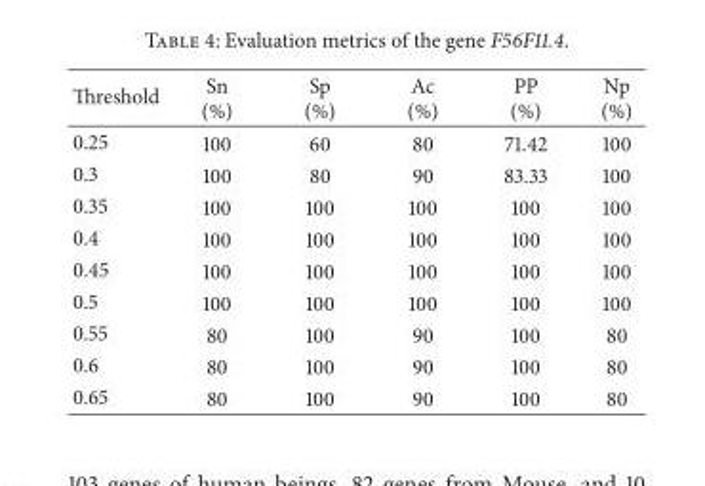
<table><thead><tr><td>Threshold</td><td>Sn (%)</td><td>Sp (%)</td><td>Ac (%)</td><td>PP (%)</td><td>Np (%)</td></tr></thead><tbody><tr><td>0.25</td><td>100</td><td>60</td><td>80</td><td>71.42</td><td>100</td></tr><tr><td>0.3</td><td>100</td><td>80</td><td>90</td><td>83.33</td><td>100</td></tr><tr><td>0.35</td><td>100</td><td>100</td><td>100</td><td>100</td><td>100</td></tr><tr><td>0.4</td><td>100</td><td>100</td><td>100</td><td>100</td><td>100</td></tr><tr><td>0.45</td><td>100</td><td>100</td><td>100</td><td>100</td><td>100</td></tr><tr><td>0.5</td><td>100</td><td>100</td><td>100</td><td>100</td><td>100</td></tr><tr><td>0.55</td><td>80</td><td>100</td><td>90</td><td>100</td><td>80</td></tr><tr><td>0.6</td><td>80</td><td>100</td><td>90</td><td>100</td><td>80</td></tr><tr><td>0.65</td><td>80</td><td>100</td><td>90</td><td>100</td><td>80</td></tr></tbody></table>